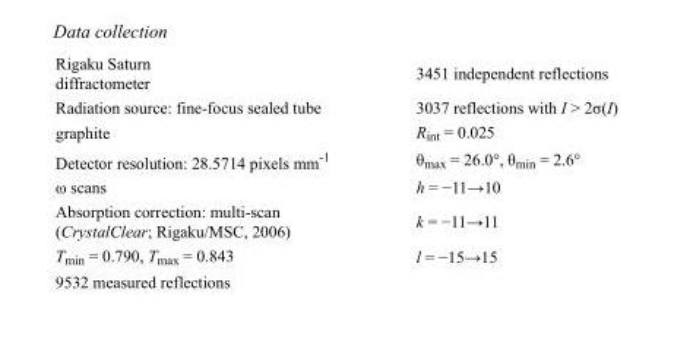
<table><tbody><tr><td>Rigaku Saturn diffractometer</td><td>3451 independent reflections</td></tr><tr><td>Radiation source: fine-focus sealed tube</td><td>3037 reflections with I &gt; 2σ(I)</td></tr><tr><td>graphite</td><td>R<sub>int</sub> = 0.025</td></tr><tr><td>Detector resolution: 28.5714 pixels mm<sup>-1</sup></td><td>θ<sub>max</sub> = 26.0°, θ<sub>min</sub> = 2.6°</td></tr><tr><td>ω scans</td><td>h = −11→10</td></tr><tr><td>Absorption correction: multi-scan (CrystalClear; Rigaku/MSC, 2006)</td><td>k = −11→11</td></tr><tr><td>T<sub>min</sub> = 0.790, T<sub>max</sub> = 0.843</td><td>l = −15→15</td></tr><tr><td>9532 measured reflections</td><td></td></tr></tbody></table>